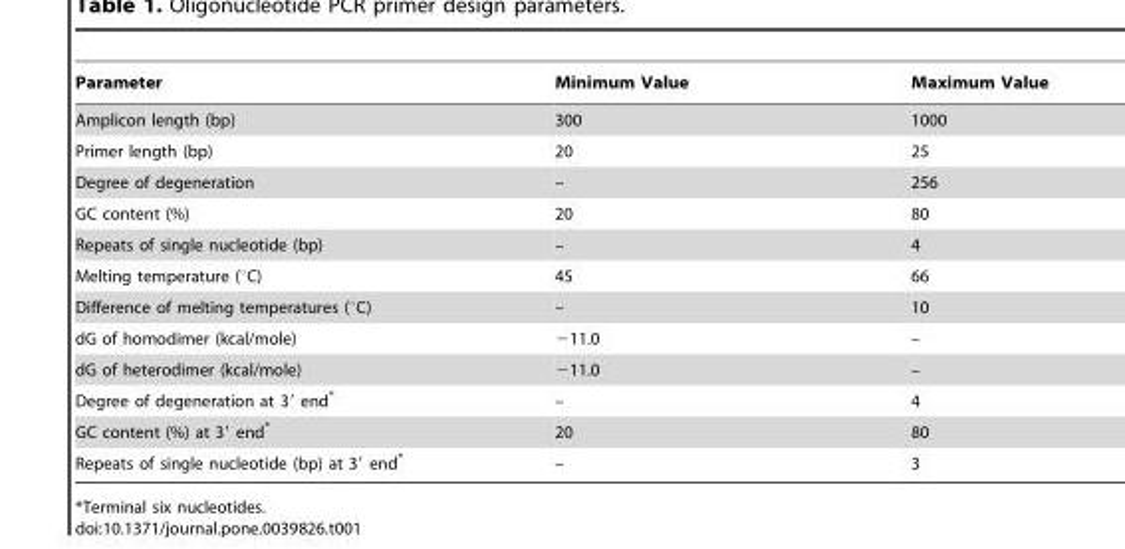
<table><thead><tr><td>Parameter</td><td>Minimum Value</td><td>Maximum Value</td></tr></thead><tbody><tr><td>Amplicon length (bp)</td><td>300</td><td>1000</td></tr><tr><td>Primer length (bp)</td><td>20</td><td>25</td></tr><tr><td>Degree of degeneration</td><td>–</td><td>256</td></tr><tr><td>GC content (%)</td><td>20</td><td>80</td></tr><tr><td>Repeats of single nucleotide (bp)</td><td>–</td><td>4</td></tr><tr><td>Melting temperature (°C)</td><td>45</td><td>66</td></tr><tr><td>Difference of melting temperatures (°C)</td><td>–</td><td>10</td></tr><tr><td>dG of homodimer (kcal/mole)</td><td>−11.0</td><td>–</td></tr><tr><td>dG of heterodimer (kcal/mole)</td><td>−11.0</td><td>–</td></tr><tr><td>Degree of degeneration at 3′ end*</td><td>–</td><td>4</td></tr><tr><td>GC content (%) at 3′ end*</td><td>20</td><td>80</td></tr><tr><td>Repeats of single nucleotide (bp) at 3′ end*</td><td>–</td><td>3</td></tr></tbody></table>